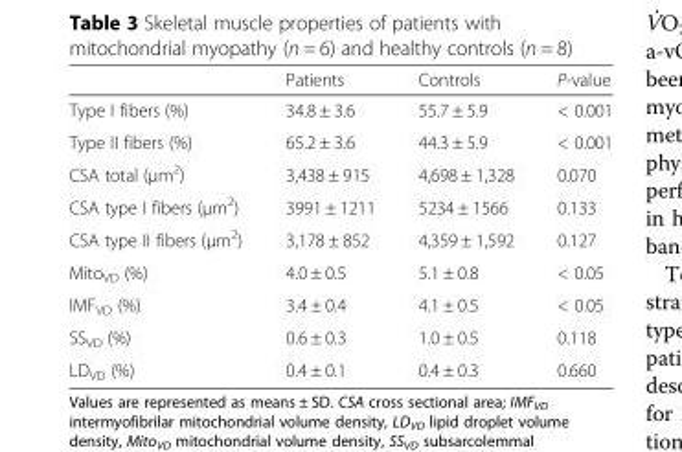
<table><thead><tr><td></td><td>Patients</td><td>Controls</td><td>P-value</td></tr></thead><tbody><tr><td>Type I fibers (%)</td><td>34.8 ± 3.6</td><td>55.7 ± 5.9</td><td>&lt; 0.001</td></tr><tr><td>Type II fibers (%)</td><td>65.2 ± 3.6</td><td>44.3 ± 5.9</td><td>&lt; 0.001</td></tr><tr><td>CSA total (μm<sup>2</sup>)</td><td>3,438 ± 915</td><td>4,698 ± 1,328</td><td>0.070</td></tr><tr><td>CSA type I fibers (μm<sup>2</sup>)</td><td>3991 ± 1211</td><td>5234 ± 1566</td><td>0.133</td></tr><tr><td>CSA type II fibers (μm<sup>2</sup>)</td><td>3,178 ± 852</td><td>4,359 ± 1,592</td><td>0.127</td></tr><tr><td>Mito<sub>VD</sub> (%)</td><td>4.0 ± 0.5</td><td>5.1 ± 0.8</td><td>&lt; 0.05</td></tr><tr><td>IMF<sub>VD</sub> (%)</td><td>3.4 ± 0.4</td><td>4.1 ± 0.5</td><td>&lt; 0.05</td></tr><tr><td>SS<sub>VD</sub> (%)</td><td>0.6 ± 0.3</td><td>1.0 ± 0.5</td><td>0.118</td></tr><tr><td>LD<sub>VD</sub> (%)</td><td>0.4 ± 0.1</td><td>0.4 ± 0.3</td><td>0.660</td></tr></tbody></table>